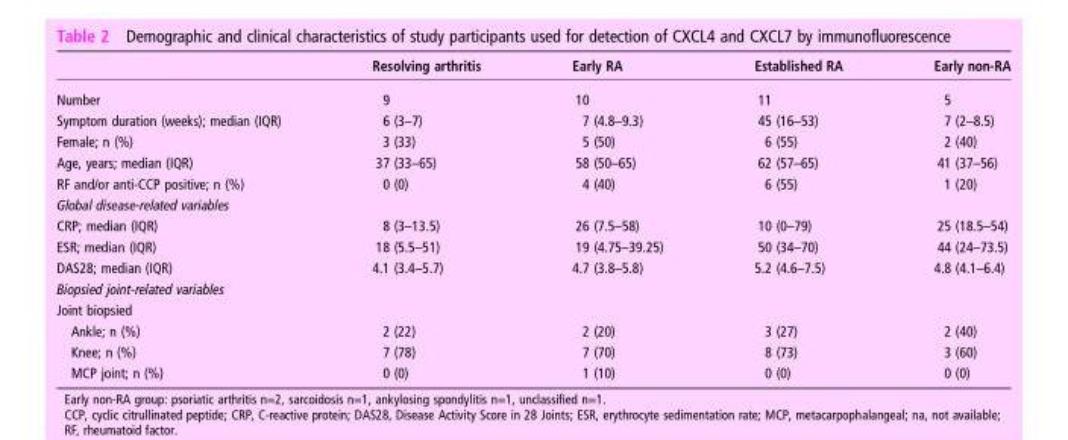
<table><thead><tr><td></td><td>Resolving arthritis</td><td>Early RA</td><td>Established RA</td><td>Early non-RA</td></tr></thead><tbody><tr><td>Number</td><td>9</td><td>10</td><td>11</td><td>5</td></tr><tr><td>Symptom duration (weeks); median (IQR)</td><td>6 (3–7)</td><td>7 (4.8–9.3)</td><td>45 (16–53)</td><td>7 (2–8.5)</td></tr><tr><td>Female; n (%)</td><td>3 (33)</td><td>5 (50)</td><td>6 (55)</td><td>2 (40)</td></tr><tr><td>Age, years; median (IQR)</td><td>37 (33–65)</td><td>58 (50–65)</td><td>62 (57–65)</td><td>41 (37–56)</td></tr><tr><td>RF and/or anti-CCP positive; n (%)</td><td>0 (0)</td><td>4 (40)</td><td>6 (55)</td><td>1 (20)</td></tr><tr><td colspan="5">Global disease-related variables</td></tr><tr><td>CRP; median (IQR)</td><td>8 (3–13.5)</td><td>26 (7.5–58)</td><td>10 (0–79)</td><td>25 (18.5–54)</td></tr><tr><td>ESR; median (IQR)</td><td>18 (5.5–51)</td><td>19 (4.75–39.25)</td><td>50 (34–70)</td><td>44 (24–73.5)</td></tr><tr><td>DAS28; median (IQR)</td><td>4.1 (3.4–5.7)</td><td>4.7 (3.8–5.8)</td><td>5.2 (4.6–7.5)</td><td>4.8 (4.1–6.4)</td></tr><tr><td colspan="5">Biopsied joint-related variables</td></tr><tr><td colspan="5">Joint biopsied</td></tr><tr><td>Ankle; n (%)</td><td>2 (22)</td><td>2 (20)</td><td>3 (27)</td><td>2 (40)</td></tr><tr><td>Knee; n (%)</td><td>7 (78)</td><td>7 (70)</td><td>8 (73)</td><td>3 (60)</td></tr><tr><td>MCP joint; n (%)</td><td>0 (0)</td><td>1 (10)</td><td>0 (0)</td><td>0 (0)</td></tr></tbody></table>